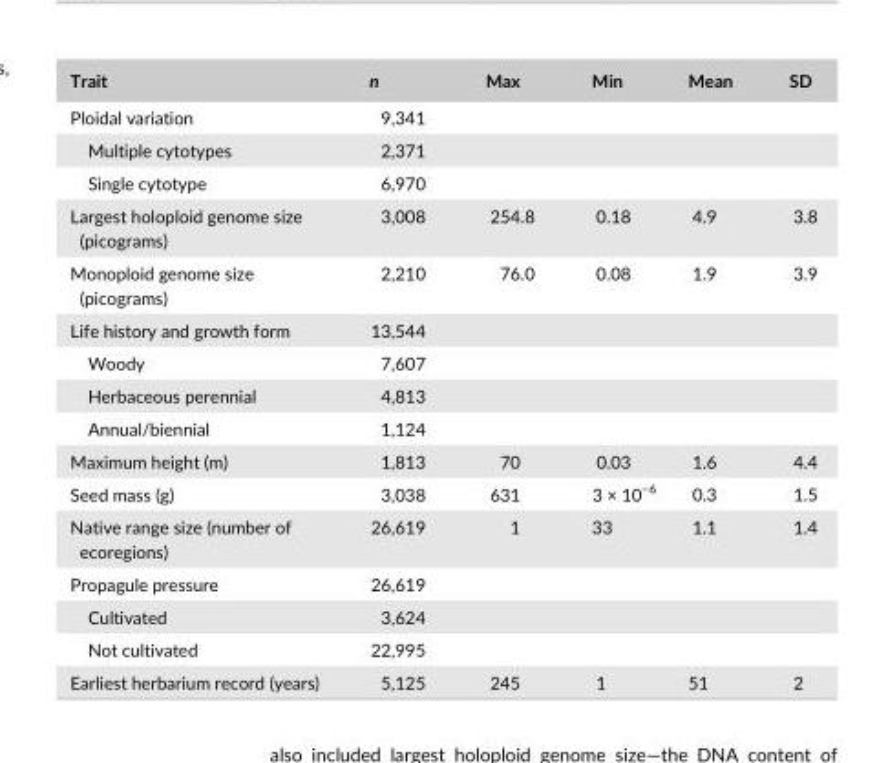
<table><thead><tr><td>Trait</td><td>n</td><td>Max</td><td>Min</td><td>Mean</td><td>SD</td></tr></thead><tbody><tr><td>Ploidal variation</td><td>9,341</td><td></td><td></td><td></td><td></td></tr><tr><td>Multiple cytotypes</td><td>2,371</td><td></td><td></td><td></td><td></td></tr><tr><td>Single cytotype</td><td>6,970</td><td></td><td></td><td></td><td></td></tr><tr><td>Largest holoploid genome size (picograms)</td><td>3,008</td><td>254.8</td><td>0.18</td><td>4.9</td><td>3.8</td></tr><tr><td>Monoploid genome size (picograms)</td><td>2,210</td><td>76.0</td><td>0.08</td><td>1.9</td><td>3.9</td></tr><tr><td>Life history and growth form</td><td>13,544</td><td></td><td></td><td></td><td></td></tr><tr><td>Woody</td><td>7,607</td><td></td><td></td><td></td><td></td></tr><tr><td>Herbaceous perennial</td><td>4,813</td><td></td><td></td><td></td><td></td></tr><tr><td>Annual/biennial</td><td>1,124</td><td></td><td></td><td></td><td></td></tr><tr><td>Maximum height (m)</td><td>1,813</td><td>70</td><td>0.03</td><td>1.6</td><td>4.4</td></tr><tr><td>Seed mass (g)</td><td>3,038</td><td>631</td><td>3 × 10<sup>−6</sup></td><td>0.3</td><td>1.5</td></tr><tr><td>Native range size (number of ecoregions)</td><td>26,619</td><td>1</td><td>33</td><td>1.1</td><td>1.4</td></tr><tr><td>Propagule pressure</td><td>26,619</td><td></td><td></td><td></td><td></td></tr><tr><td>Cultivated</td><td>3,624</td><td></td><td></td><td></td><td></td></tr><tr><td>Not cultivated</td><td>22,995</td><td></td><td></td><td></td><td></td></tr><tr><td>Earliest herbarium record (years)</td><td>5,125</td><td>245</td><td>1</td><td>51</td><td>2</td></tr></tbody></table>